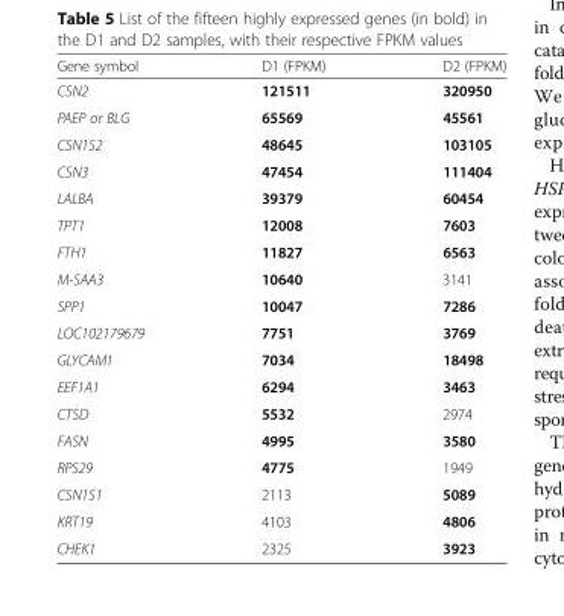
<table><thead><tr><td>Gene symbol</td><td>D1 (FPKM)</td><td>D2 (FPKM)</td></tr></thead><tbody><tr><td>CSN2</td><td>121511</td><td>320950</td></tr><tr><td>PAEP or BLG</td><td>65569</td><td>45561</td></tr><tr><td>CSN1S2</td><td>48645</td><td>103105</td></tr><tr><td>CSN3</td><td>47454</td><td>111404</td></tr><tr><td>LALBA</td><td>39379</td><td>60454</td></tr><tr><td>TPT1</td><td>12008</td><td>7603</td></tr><tr><td>FTH1</td><td>11827</td><td>6563</td></tr><tr><td>M-SAA3</td><td>10640</td><td>3141</td></tr><tr><td>SPP1</td><td>10047</td><td>7286</td></tr><tr><td>LOC102179679</td><td>7751</td><td>3769</td></tr><tr><td>GLYCAM1</td><td>7034</td><td>18498</td></tr><tr><td>EEF1A1</td><td>6294</td><td>3463</td></tr><tr><td>CTSD</td><td>5532</td><td>2974</td></tr><tr><td>FASN</td><td>4995</td><td>3580</td></tr><tr><td>RPS29</td><td>4775</td><td>1949</td></tr><tr><td>CSN1S1</td><td>2113</td><td>5089</td></tr><tr><td>KRT19</td><td>4103</td><td>4806</td></tr><tr><td>CHEK1</td><td>2325</td><td>3923</td></tr></tbody></table>